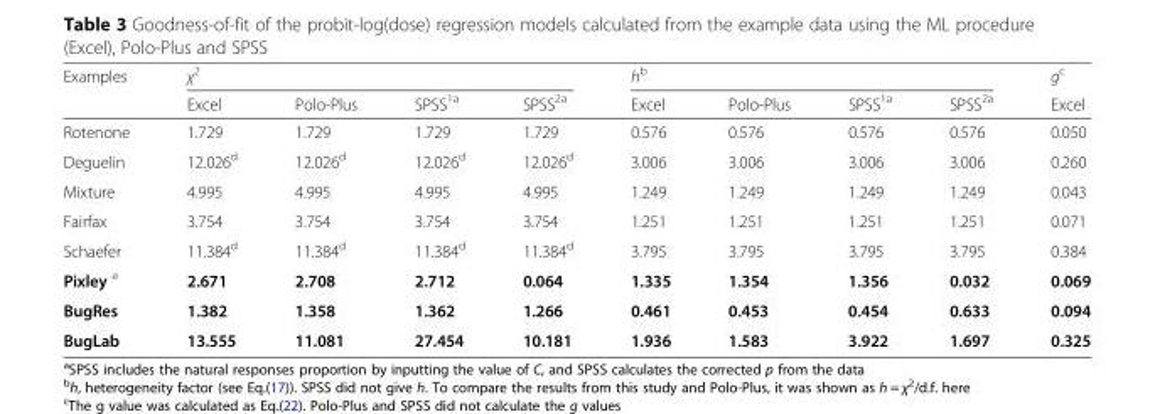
<table><thead><tr><td rowspan="2">Examples</td><td colspan="4">χ<sup>2</sup></td><td colspan="4">h<sup>b</sup></td><td rowspan="2">g<sup>c</sup> Excel</td></tr><tr><td>Excel</td><td>Polo-Plus</td><td>SPSS<sup>1a</sup></td><td>SPSS<sup>2a</sup></td><td>Excel</td><td>Polo-Plus</td><td>SPSS<sup>1a</sup></td><td>SPSS<sup>2a</sup></td></tr></thead><tbody><tr><td>Rotenone</td><td>1.729</td><td>1.729</td><td>1.729</td><td>1.729</td><td>0.576</td><td>0.576</td><td>0.576</td><td>0.576</td><td>0.050</td></tr><tr><td>Deguelin</td><td>12.026<sup>d</sup></td><td>12.026<sup>d</sup></td><td>12.026<sup>d</sup></td><td>12.026<sup>d</sup></td><td>3.006</td><td>3.006</td><td>3.006</td><td>3.006</td><td>0.260</td></tr><tr><td>Mixture</td><td>4.995</td><td>4.995</td><td>4.995</td><td>4.995</td><td>1.249</td><td>1.249</td><td>1.249</td><td>1.249</td><td>0.043</td></tr><tr><td>Fairfax</td><td>3.754</td><td>3.754</td><td>3.754</td><td>3.754</td><td>1.251</td><td>1.251</td><td>1.251</td><td>1.251</td><td>0.071</td></tr><tr><td>Schaefer</td><td>11.384<sup>d</sup></td><td>11.384<sup>d</sup></td><td>11.384<sup>d</sup></td><td>11.384<sup>d</sup></td><td>3.795</td><td>3.795</td><td>3.795</td><td>3.795</td><td>0.384</td></tr><tr><td>Pixley <sup>e</sup></td><td>2.671</td><td>2.708</td><td>2.712</td><td>0.064</td><td>1.335</td><td>1.354</td><td>1.356</td><td>0.032</td><td>0.069</td></tr><tr><td>BugRes</td><td>1.382</td><td>1.358</td><td>1.362</td><td>1.266</td><td>0.461</td><td>0.453</td><td>0.454</td><td>0.633</td><td>0.094</td></tr><tr><td>BugLab</td><td>13.555</td><td>11.081</td><td>27.454</td><td>10.181</td><td>1.936</td><td>1.583</td><td>3.922</td><td>1.697</td><td>0.325</td></tr></tbody></table>